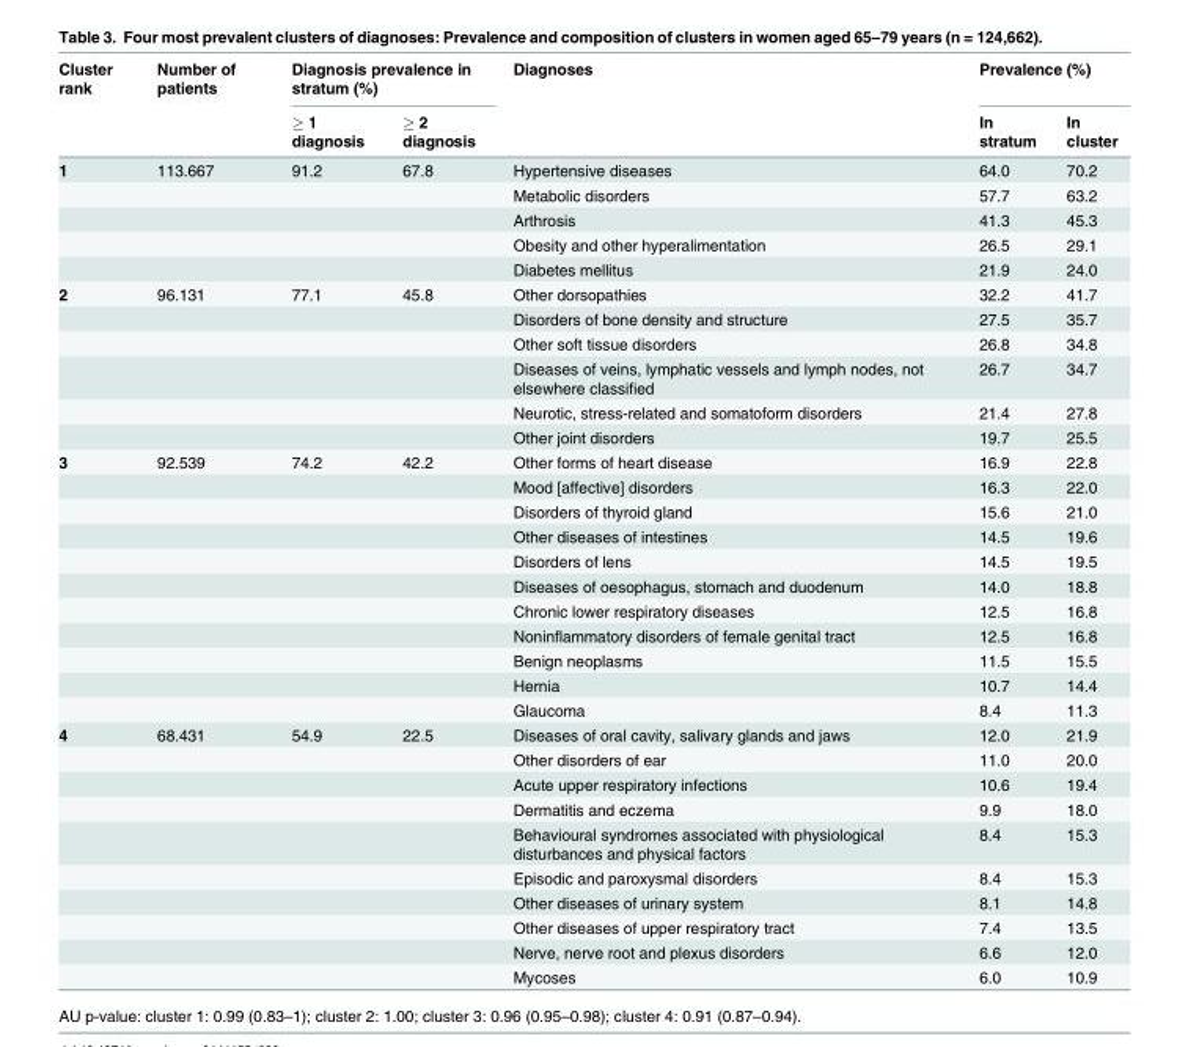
<table><thead><tr><td rowspan="2">Cluster rank</td><td rowspan="2">Number of patients</td><td colspan="2">Diagnosis prevalence in stratum (%)</td><td rowspan="2">Diagnoses</td><td colspan="2">Prevalence (%)</td></tr><tr><td>≥ 1 diagnosis</td><td>≥ 2 diagnosis</td><td>In stratum</td><td>In cluster</td></tr></thead><tbody><tr><td rowspan="5">1</td><td>113.667</td><td>91.2</td><td>67.8</td><td>Hypertensive diseases</td><td>64.0</td><td>70.2</td></tr><tr><td></td><td></td><td></td><td>Metabolic disorders</td><td>57.7</td><td>63.2</td></tr><tr><td></td><td></td><td></td><td>Arthrosis</td><td>41.3</td><td>45.3</td></tr><tr><td></td><td></td><td></td><td>Obesity and other hyperalimentation</td><td>26.5</td><td>29.1</td></tr><tr><td></td><td></td><td></td><td>Diabetes mellitus</td><td>21.9</td><td>24.0</td></tr><tr><td rowspan="6">2</td><td>96.131</td><td>77.1</td><td>45.8</td><td>Other dorsopathies</td><td>32.2</td><td>41.7</td></tr><tr><td></td><td></td><td></td><td>Disorders of bone density and structure</td><td>27.5</td><td>35.7</td></tr><tr><td></td><td></td><td></td><td>Other soft tissue disorders</td><td>26.8</td><td>34.8</td></tr><tr><td></td><td></td><td></td><td>Diseases of veins, lymphatic vessels and lymph nodes, not elsewhere classified</td><td>26.7</td><td>34.7</td></tr><tr><td></td><td></td><td></td><td>Neurotic, stress-related and somatoform disorders</td><td>21.4</td><td>27.8</td></tr><tr><td></td><td></td><td></td><td>Other joint disorders</td><td>19.7</td><td>25.5</td></tr><tr><td rowspan="11">3</td><td>92.539</td><td>74.2</td><td>42.2</td><td>Other forms of heart disease</td><td>16.9</td><td>22.8</td></tr><tr><td></td><td></td><td></td><td>Mood [affective] disorders</td><td>16.3</td><td>22.0</td></tr><tr><td></td><td></td><td></td><td>Disorders of thyroid gland</td><td>15.6</td><td>21.0</td></tr><tr><td></td><td></td><td></td><td>Other diseases of intestines</td><td>14.5</td><td>19.6</td></tr><tr><td></td><td></td><td></td><td>Disorders of lens</td><td>14.5</td><td>19.5</td></tr><tr><td></td><td></td><td></td><td>Diseases of oesophagus, stomach and duodenum</td><td>14.0</td><td>18.8</td></tr><tr><td></td><td></td><td></td><td>Chronic lower respiratory diseases</td><td>12.5</td><td>16.8</td></tr><tr><td></td><td></td><td></td><td>Noninflammatory disorders of female genital tract</td><td>12.5</td><td>16.8</td></tr><tr><td></td><td></td><td></td><td>Benign neoplasms</td><td>11.5</td><td>15.5</td></tr><tr><td></td><td></td><td></td><td>Hernia</td><td>10.7</td><td>14.4</td></tr><tr><td></td><td></td><td></td><td>Glaucoma</td><td>8.4</td><td>11.3</td></tr><tr><td rowspan="10">4</td><td>68.431</td><td>54.9</td><td>22.5</td><td>Diseases of oral cavity, salivary glands and jaws</td><td>12.0</td><td>21.9</td></tr><tr><td></td><td></td><td></td><td>Other disorders of ear</td><td>11.0</td><td>20.0</td></tr><tr><td></td><td></td><td></td><td>Acute upper respiratory infections</td><td>10.6</td><td>19.4</td></tr><tr><td></td><td></td><td></td><td>Dermatitis and eczema</td><td>9.9</td><td>18.0</td></tr><tr><td></td><td></td><td></td><td>Behavioural syndromes associated with physiological disturbances and physical factors</td><td>8.4</td><td>15.3</td></tr><tr><td></td><td></td><td></td><td>Episodic and paroxysmal disorders</td><td>8.4</td><td>15.3</td></tr><tr><td></td><td></td><td></td><td>Other diseases of urinary system</td><td>8.1</td><td>14.8</td></tr><tr><td></td><td></td><td></td><td>Other diseases of upper respiratory tract</td><td>7.4</td><td>13.5</td></tr><tr><td></td><td></td><td></td><td>Nerve, nerve root and plexus disorders</td><td>6.6</td><td>12.0</td></tr><tr><td></td><td></td><td></td><td>Mycoses</td><td>6.0</td><td>10.9</td></tr></tbody></table>